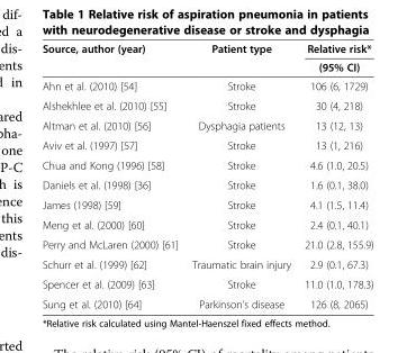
<table><thead><tr><td rowspan="2">Source, author (year)</td><td rowspan="2">Patient type</td><td rowspan="2">Relative risk* (95% CI)</td></tr><tr></tr></thead><tbody><tr><td>Ahn et al. (2010) [54]</td><td>Stroke</td><td>106 (6, 1729)</td></tr><tr><td>Alshekhlee et al. (2010) [55]</td><td>Stroke</td><td>30 (4, 218)</td></tr><tr><td>Altman et al. (2010) [56]</td><td>Dysphagia patients</td><td>13 (12, 13)</td></tr><tr><td>Aviv et al. (1997) [57]</td><td>Stroke</td><td>13 (1, 216)</td></tr><tr><td>Chua and Kong (1996) [58]</td><td>Stroke</td><td>4.6 (1.0, 20.5)</td></tr><tr><td>Daniels et al. (1998) [36]</td><td>Stroke</td><td>1.6 (0.1, 38.0)</td></tr><tr><td>James (1998) [59]</td><td>Stroke</td><td>4.1 (1.5, 11.4)</td></tr><tr><td>Meng et al. (2000) [60]</td><td>Stroke</td><td>2.4 (0.1, 40.1)</td></tr><tr><td>Perry and McLaren (2000) [61]</td><td>Stroke</td><td>21.0 (2.8, 155.9)</td></tr><tr><td>Schurr et al. (1999) [62]</td><td>Traumatic brain injury</td><td>2.9 (0.1, 67.3)</td></tr><tr><td>Spencer et al. (2009) [63]</td><td>Stroke</td><td>11.0 (1.0, 178.3)</td></tr><tr><td>Sung et al. (2010) [64]</td><td>Parkinson’s disease</td><td>126 (8, 2065)</td></tr></tbody></table>